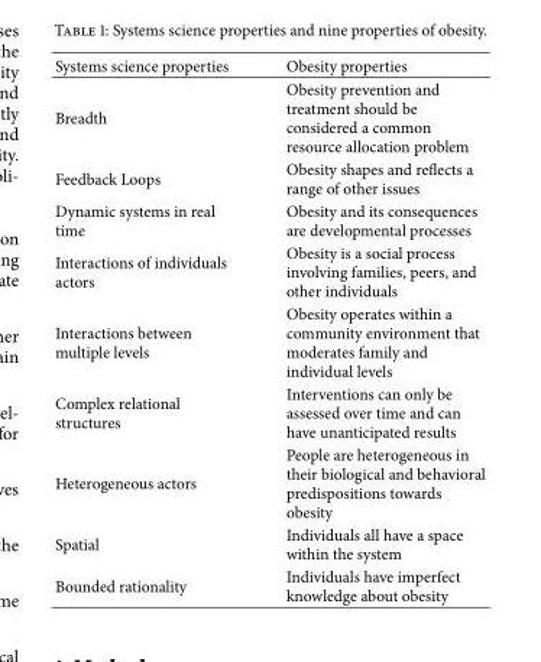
<table><thead><tr><td>Systems science properties</td><td>Obesity properties</td></tr></thead><tbody><tr><td>Breadth</td><td>Obesity prevention and treatment should be considered a common resource allocation problem</td></tr><tr><td>Feedback Loops</td><td>Obesity shapes and reflects a range of other issues</td></tr><tr><td>Dynamic systems in real time</td><td>Obesity and its consequences are developmental processes</td></tr><tr><td>Interactions of individuals actors</td><td>Obesity is a social process involving families, peers, and other individuals</td></tr><tr><td>Interactions between multiple levels</td><td>Obesity operates within a community environment that moderates family and individual levels</td></tr><tr><td>Complex relational structures</td><td>Interventions can only be assessed over time and can have unanticipated results</td></tr><tr><td>Heterogeneous actors</td><td>People are heterogeneous in their biological and behavioral predispositions towards obesity</td></tr><tr><td>Spatial</td><td>Individuals all have a space within the system</td></tr><tr><td>Bounded rationality</td><td>Individuals have imperfect knowledge about obesity</td></tr></tbody></table>